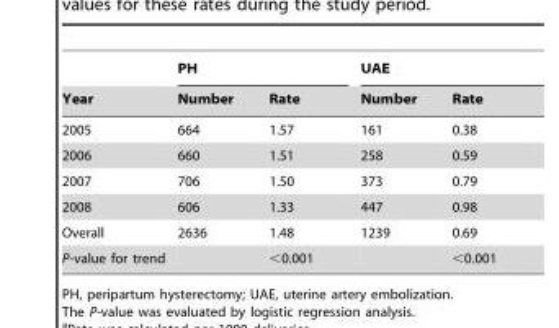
<table><thead><tr><td rowspan="2">Year</td><td colspan="2">PH</td><td colspan="2">UAE</td></tr><tr><td>Number</td><td>Rate</td><td>Number</td><td>Rate</td></tr></thead><tbody><tr><td>2005</td><td>664</td><td>1.57</td><td>161</td><td>0.38</td></tr><tr><td>2006</td><td>660</td><td>1.51</td><td>258</td><td>0.59</td></tr><tr><td>2007</td><td>706</td><td>1.50</td><td>373</td><td>0.79</td></tr><tr><td>2008</td><td>606</td><td>1.33</td><td>447</td><td>0.98</td></tr><tr><td>Overall</td><td>2636</td><td>1.48</td><td>1239</td><td>0.69</td></tr><tr><td>P-value for trend</td><td></td><td>&lt;0.001</td><td></td><td>&lt;0.001</td></tr></tbody></table>